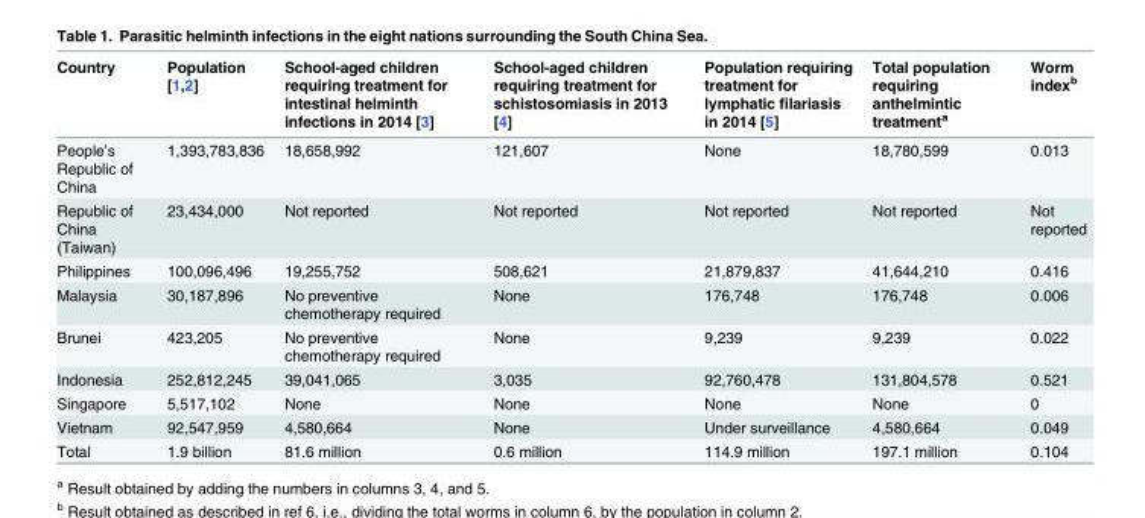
<table><thead><tr><td>Country</td><td>Population [1,2]</td><td>School-aged children requiring treatment for intestinal helminth infections in 2014 [3]</td><td>School-aged children requiring treatment for schistosomiasis in 2013 [4]</td><td>Population requiring treatment for lymphatic filariasis in 2014 [5]</td><td>Total population requiring anthelmintic treatment<sup>a</sup></td><td>Worm index<sup>b</sup></td></tr></thead><tbody><tr><td>People’s Republic of China</td><td>1,393,783,836</td><td>18,658,992</td><td>121,607</td><td>None</td><td>18,780,599</td><td>0.013</td></tr><tr><td>Republic of China (Taiwan)</td><td>23,434,000</td><td>Not reported</td><td>Not reported</td><td>Not reported</td><td>Not reported</td><td>Not reported</td></tr><tr><td>Philippines</td><td>100,096,496</td><td>19,255,752</td><td>508,621</td><td>21,879,837</td><td>41,644,210</td><td>0.416</td></tr><tr><td>Malaysia</td><td>30,187,896</td><td>No preventive chemotherapy required</td><td>None</td><td>176,748</td><td>176,748</td><td>0.006</td></tr><tr><td>Brunei</td><td>423,205</td><td>No preventive chemotherapy required</td><td>None</td><td>9,239</td><td>9,239</td><td>0.022</td></tr><tr><td>Indonesia</td><td>252,812,245</td><td>39,041,065</td><td>3,035</td><td>92,760,478</td><td>131,804,578</td><td>0.521</td></tr><tr><td>Singapore</td><td>5,517,102</td><td>None</td><td>None</td><td>None</td><td>None</td><td>0</td></tr><tr><td>Vietnam</td><td>92,547,959</td><td>4,580,664</td><td>None</td><td>Under surveillance</td><td>4,580,664</td><td>0.049</td></tr><tr><td>Total</td><td>1.9 billion</td><td>81.6 million</td><td>0.6 million</td><td>114.9 million</td><td>197.1 million</td><td>0.104</td></tr></tbody></table>